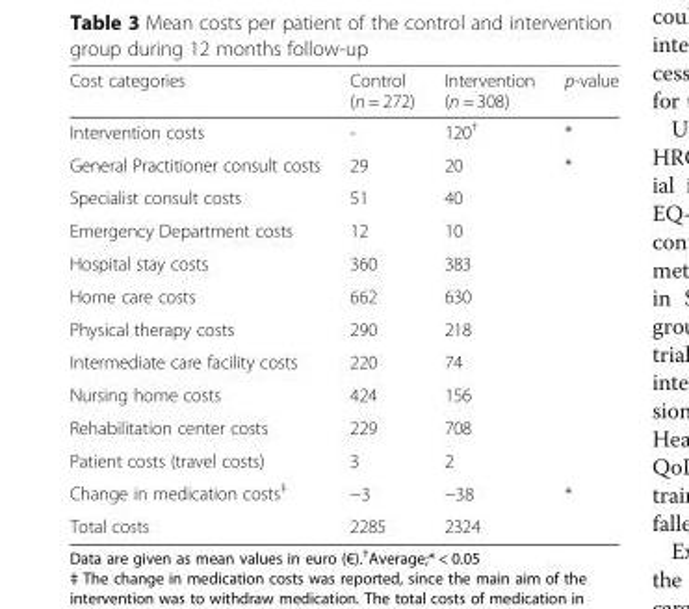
<table><thead><tr><td>Cost categories</td><td>Control (n = 272)</td><td>Intervention (n = 308)</td><td>p-value</td></tr></thead><tbody><tr><td>Intervention costs</td><td>-</td><td>120<sup>†</sup></td><td>*</td></tr><tr><td>General Practitioner consult costs</td><td>29</td><td>20</td><td>*</td></tr><tr><td>Specialist consult costs</td><td>51</td><td>40</td><td></td></tr><tr><td>Emergency Department costs</td><td>12</td><td>10</td><td></td></tr><tr><td>Hospital stay costs</td><td>360</td><td>383</td><td></td></tr><tr><td>Home care costs</td><td>662</td><td>630</td><td></td></tr><tr><td>Physical therapy costs</td><td>290</td><td>218</td><td></td></tr><tr><td>Intermediate care facility costs</td><td>220</td><td>74</td><td></td></tr><tr><td>Nursing home costs</td><td>424</td><td>156</td><td></td></tr><tr><td>Rehabilitation center costs</td><td>229</td><td>708</td><td></td></tr><tr><td>Patient costs (travel costs)</td><td>3</td><td>2</td><td></td></tr><tr><td>Change in medication costs<sup>‡</sup></td><td>−3</td><td>−38</td><td>*</td></tr><tr><td>Total costs</td><td>2285</td><td>2324</td><td></td></tr></tbody></table>